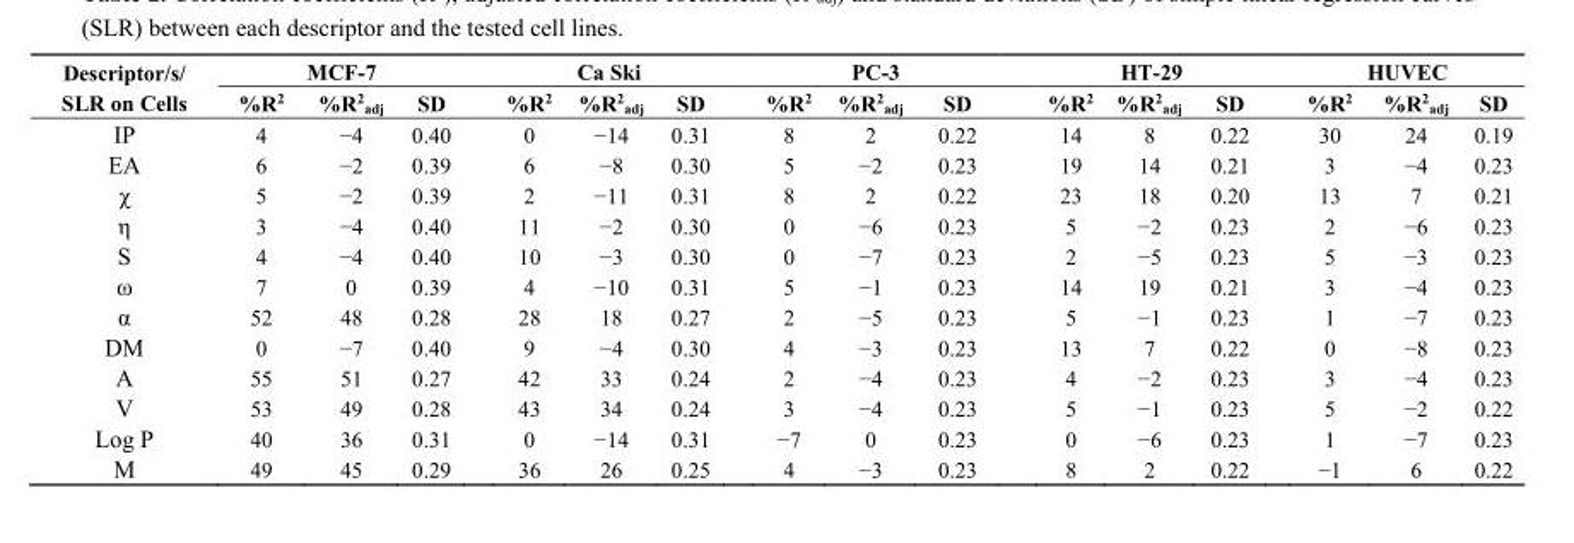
<table><thead><tr><td rowspan="2">Descriptor/s/ SLR on Cells</td><td colspan="3">MCF-7</td><td colspan="3">Ca Ski</td><td colspan="3">PC-3</td><td colspan="3">HT-29</td><td colspan="3">HUVEC</td></tr><tr><td>%R<sup>2</sup></td><td>%R<sup>2</sup><sub>adj</sub></td><td>SD</td><td>%R<sup>2</sup></td><td>%R<sup>2</sup><sub>adj</sub></td><td>SD</td><td>%R<sup>2</sup></td><td>%R<sup>2</sup><sub>adj</sub></td><td>SD</td><td>%R<sup>2</sup></td><td>%R<sup>2</sup><sub>adj</sub></td><td>SD</td><td>%R<sup>2</sup></td><td>%R<sup>2</sup><sub>adj</sub></td><td>SD</td></tr></thead><tbody><tr><td>IP</td><td>4</td><td>−4</td><td>0.40</td><td>0</td><td>−14</td><td>0.31</td><td>8</td><td>2</td><td>0.22</td><td>14</td><td>8</td><td>0.22</td><td>30</td><td>24</td><td>0.19</td></tr><tr><td>EA</td><td>6</td><td>−2</td><td>0.39</td><td>6</td><td>−8</td><td>0.30</td><td>5</td><td>−2</td><td>0.23</td><td>19</td><td>14</td><td>0.21</td><td>3</td><td>−4</td><td>0.23</td></tr><tr><td>χ</td><td>5</td><td>−2</td><td>0.39</td><td>2</td><td>−11</td><td>0.31</td><td>8</td><td>2</td><td>0.22</td><td>23</td><td>18</td><td>0.20</td><td>13</td><td>7</td><td>0.21</td></tr><tr><td>η</td><td>3</td><td>−4</td><td>0.40</td><td>11</td><td>−2</td><td>0.30</td><td>0</td><td>−6</td><td>0.23</td><td>5</td><td>−2</td><td>0.23</td><td>2</td><td>−6</td><td>0.23</td></tr><tr><td>S</td><td>4</td><td>−4</td><td>0.40</td><td>10</td><td>−3</td><td>0.30</td><td>0</td><td>−7</td><td>0.23</td><td>2</td><td>−5</td><td>0.23</td><td>5</td><td>−3</td><td>0.23</td></tr><tr><td>ω</td><td>7</td><td>0</td><td>0.39</td><td>4</td><td>−10</td><td>0.31</td><td>5</td><td>−1</td><td>0.23</td><td>14</td><td>19</td><td>0.21</td><td>3</td><td>−4</td><td>0.23</td></tr><tr><td>α</td><td>52</td><td>48</td><td>0.28</td><td>28</td><td>18</td><td>0.27</td><td>2</td><td>−5</td><td>0.23</td><td>5</td><td>−1</td><td>0.23</td><td>1</td><td>−7</td><td>0.23</td></tr><tr><td>DM</td><td>0</td><td>−7</td><td>0.40</td><td>9</td><td>−4</td><td>0.30</td><td>4</td><td>−3</td><td>0.23</td><td>13</td><td>7</td><td>0.22</td><td>0</td><td>−8</td><td>0.23</td></tr><tr><td>A</td><td>55</td><td>51</td><td>0.27</td><td>42</td><td>33</td><td>0.24</td><td>2</td><td>−4</td><td>0.23</td><td>4</td><td>−2</td><td>0.23</td><td>3</td><td>−4</td><td>0.23</td></tr><tr><td>V</td><td>53</td><td>49</td><td>0.28</td><td>43</td><td>34</td><td>0.24</td><td>3</td><td>−4</td><td>0.23</td><td>5</td><td>−1</td><td>0.23</td><td>5</td><td>−2</td><td>0.22</td></tr><tr><td>Log P</td><td>40</td><td>36</td><td>0.31</td><td>0</td><td>−14</td><td>0.31</td><td>−7</td><td>0</td><td>0.23</td><td>0</td><td>−6</td><td>0.23</td><td>1</td><td>−7</td><td>0.23</td></tr><tr><td>M</td><td>49</td><td>45</td><td>0.29</td><td>36</td><td>26</td><td>0.25</td><td>4</td><td>−3</td><td>0.23</td><td>8</td><td>2</td><td>0.22</td><td>−1</td><td>6</td><td>0.22</td></tr></tbody></table>